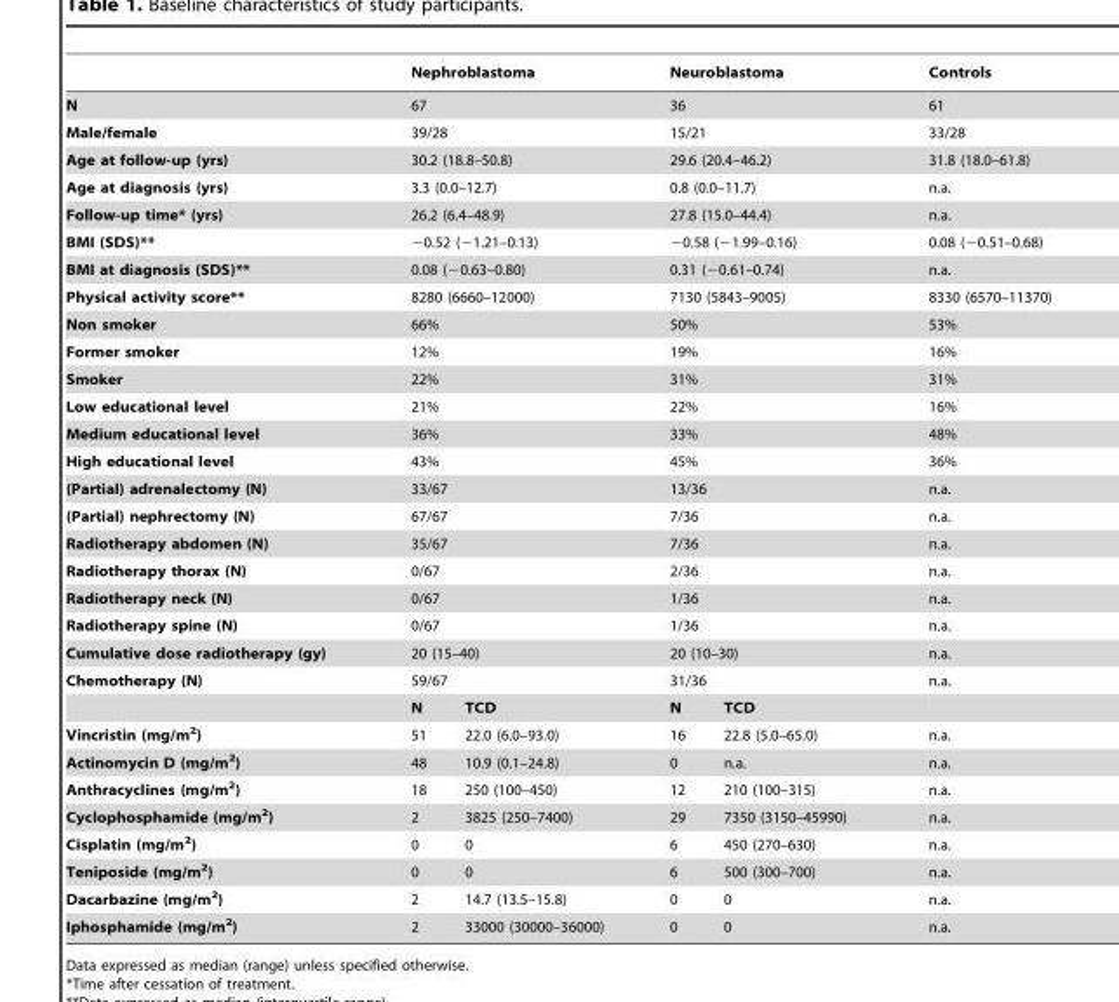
<table><thead><tr><td></td><td colspan="2">Nephroblastoma</td><td colspan="2">Neuroblastoma</td><td>Controls</td></tr></thead><tbody><tr><td>N</td><td colspan="2">67</td><td colspan="2">36</td><td>61</td></tr><tr><td>Male/female</td><td colspan="2">39/28</td><td colspan="2">15/21</td><td>33/28</td></tr><tr><td>Age at follow-up (yrs)</td><td colspan="2">30.2 (18.8–50.8)</td><td colspan="2">29.6 (20.4–46.2)</td><td>31.8 (18.0–61.8)</td></tr><tr><td>Age at diagnosis (yrs)</td><td colspan="2">3.3 (0.0–12.7)</td><td colspan="2">0.8 (0.0–11.7)</td><td>n.a.</td></tr><tr><td>Follow-up time* (yrs)</td><td colspan="2">26.2 (6.4–48.9)</td><td colspan="2">27.8 (15.0–44.4)</td><td>n.a.</td></tr><tr><td>BMI (SDS)**</td><td colspan="2">−0.52 (−1.21–0.13)</td><td colspan="2">−0.58 (−1.99–0.16)</td><td>0.08 (−0.51–0.68)</td></tr><tr><td>BMI at diagnosis (SDS)**</td><td colspan="2">0.08 (−0.63–0.80)</td><td colspan="2">0.31 (−0.61–0.74)</td><td>n.a.</td></tr><tr><td>Physical activity score**</td><td colspan="2">8280 (6660–12000)</td><td colspan="2">7130 (5843–9005)</td><td>8330 (6570–11370)</td></tr><tr><td>Non smoker</td><td colspan="2">66%</td><td colspan="2">50%</td><td>53%</td></tr><tr><td>Former smoker</td><td colspan="2">12%</td><td colspan="2">19%</td><td>16%</td></tr><tr><td>Smoker</td><td colspan="2">22%</td><td colspan="2">31%</td><td>31%</td></tr><tr><td>Low educational level</td><td colspan="2">21%</td><td colspan="2">22%</td><td>16%</td></tr><tr><td>Medium educational level</td><td colspan="2">36%</td><td colspan="2">33%</td><td>48%</td></tr><tr><td>High educational level</td><td colspan="2">43%</td><td colspan="2">45%</td><td>36%</td></tr><tr><td>(Partial) adrenalectomy (N)</td><td colspan="2">33/67</td><td colspan="2">13/36</td><td>n.a.</td></tr><tr><td>(Partial) nephrectomy (N)</td><td colspan="2">67/67</td><td colspan="2">7/36</td><td>n.a.</td></tr><tr><td>Radiotherapy abdomen (N)</td><td colspan="2">35/67</td><td colspan="2">7/36</td><td>n.a.</td></tr><tr><td>Radiotherapy thorax (N)</td><td colspan="2">0/67</td><td colspan="2">2/36</td><td>n.a.</td></tr><tr><td>Radiotherapy neck (N)</td><td colspan="2">0/67</td><td colspan="2">1/36</td><td>n.a.</td></tr><tr><td>Radiotherapy spine (N)</td><td colspan="2">0/67</td><td colspan="2">1/36</td><td>n.a.</td></tr><tr><td>Cumulative dose radiotherapy (gy)</td><td colspan="2">20 (15–40)</td><td colspan="2">20 (10–30)</td><td>n.a.</td></tr><tr><td rowspan="2">Chemotherapy (N)</td><td colspan="2">59/67</td><td colspan="2">31/36</td><td>n.a.</td></tr><tr><td>N</td><td>TCD</td><td>N</td><td>TCD</td><td></td></tr><tr><td>Vincristin (mg/m<sup>2</sup>)</td><td>51</td><td>22.0 (6.0–93.0)</td><td>16</td><td>22.8 (5.0–65.0)</td><td>n.a.</td></tr><tr><td>Actinomycin D (mg/m<sup>2</sup>)</td><td>48</td><td>10.9 (0.1–24.8)</td><td>0</td><td>n.a.</td><td>n.a.</td></tr><tr><td>Anthracyclines (mg/m<sup>2</sup>)</td><td>18</td><td>250 (100–450)</td><td>12</td><td>210 (100–315)</td><td>n.a.</td></tr><tr><td>Cyclophosphamide (mg/m<sup>2</sup>)</td><td>2</td><td>3825 (250–7400)</td><td>29</td><td>7350 (3150–45990)</td><td>n.a.</td></tr><tr><td>Cisplatin (mg/m<sup>2</sup>)</td><td>0</td><td>0</td><td>6</td><td>450 (270–630)</td><td>n.a.</td></tr><tr><td>Teniposide (mg/m<sup>2</sup>)</td><td>0</td><td>0</td><td>6</td><td>500 (300–700)</td><td>n.a.</td></tr><tr><td>Dacarbazine (mg/m<sup>2</sup>)</td><td>2</td><td>14.7 (13.5–15.8)</td><td>0</td><td>0</td><td>n.a.</td></tr><tr><td>Iphosphamide (mg/m<sup>2</sup>)</td><td>2</td><td>33000 (30000–36000)</td><td>0</td><td>0</td><td>n.a.</td></tr></tbody></table>